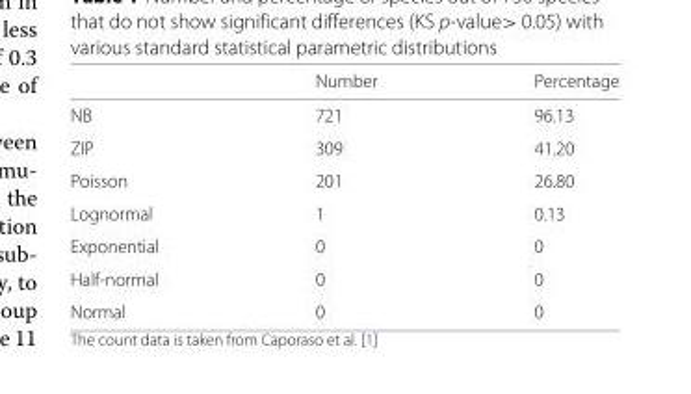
<table><thead><tr><td></td><td>Number</td><td>Percentage</td></tr></thead><tbody><tr><td>NB</td><td>721</td><td>96.13</td></tr><tr><td>ZIP</td><td>309</td><td>41.20</td></tr><tr><td>Poisson</td><td>201</td><td>26.80</td></tr><tr><td>Lognormal</td><td>1</td><td>0.13</td></tr><tr><td>Exponential</td><td>0</td><td>0</td></tr><tr><td>Half-normal</td><td>0</td><td>0</td></tr><tr><td>Normal</td><td>0</td><td>0</td></tr></tbody></table>